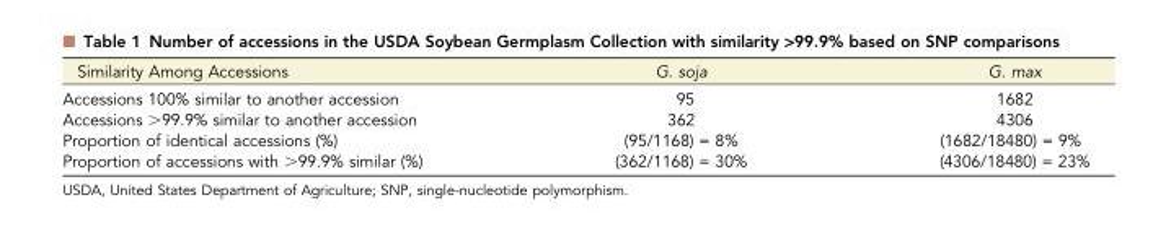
<table><thead><tr><td>Similarity Among Accessions</td><td>G. soja</td><td>G. max</td></tr></thead><tbody><tr><td>Accessions 100% similar to another accession</td><td>95</td><td>1682</td></tr><tr><td>Accessions &gt;99.9% similar to another accession</td><td>362</td><td>4306</td></tr><tr><td>Proportion of identical accessions (%)</td><td>(95/1168) = 8%</td><td>(1682/18480) = 9%</td></tr><tr><td>Proportion of accessions with &gt;99.9% similar (%)</td><td>(362/1168) = 30%</td><td>(4306/18480) = 23%</td></tr></tbody></table>